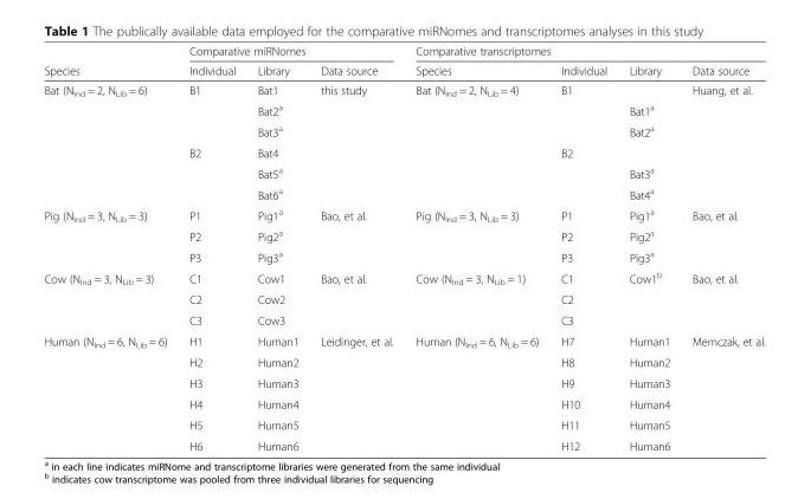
<table><thead><tr><td rowspan="2">Species</td><td colspan="3">Comparative miRNomes</td><td colspan="4">Comparative transcriptomes</td></tr><tr><td>Individual</td><td>Library</td><td>Data source</td><td>Species</td><td>Individual</td><td>Library</td><td>Data source</td></tr></thead><tbody><tr><td rowspan="6">Bat (N<sub>Ind</sub> = 2, N<sub>Lib</sub> = 6)</td><td rowspan="3">B1</td><td>Bat1</td><td rowspan="6">this study</td><td rowspan="6">Bat (N<sub>Ind</sub> = 2, N<sub>Lib</sub> = 4)</td><td rowspan="3">B1</td><td></td><td rowspan="6">Huang, et al.</td></tr><tr><td>Bat2<sup>a</sup></td><td>Bat1<sup>a</sup></td></tr><tr><td>Bat3<sup>a</sup></td><td>Bat2<sup>a</sup></td></tr><tr><td rowspan="3">B2</td><td>Bat4</td><td rowspan="3">B2</td><td></td></tr><tr><td>Bat5<sup>a</sup></td><td>Bat3<sup>a</sup></td></tr><tr><td>Bat6<sup>a</sup></td><td>Bat4<sup>a</sup></td></tr><tr><td rowspan="3">Pig (N<sub>Ind</sub> = 3, N<sub>Lib</sub> = 3)</td><td>P1</td><td>Pig1<sup>a</sup></td><td rowspan="3">Bao, et al.</td><td rowspan="3">Pig (N<sub>Ind</sub> = 3, N<sub>Lib</sub> = 3)</td><td>P1</td><td>Pig1<sup>a</sup></td><td rowspan="3">Bao, et al.</td></tr><tr><td>P2</td><td>Pig2<sup>a</sup></td><td>P2</td><td>Pig2<sup>a</sup></td></tr><tr><td>P3</td><td>Pig3<sup>a</sup></td><td>P3</td><td>Pig3<sup>a</sup></td></tr><tr><td rowspan="3">Cow (N<sub>Ind</sub> = 3, N<sub>Lib</sub> = 3)</td><td>C1</td><td>Cow1</td><td rowspan="3">Bao, et al.</td><td rowspan="3">Cow (N<sub>Ind</sub> = 3, N<sub>Lib</sub> = 1)</td><td>C1</td><td rowspan="3">Cow1<sup>b</sup></td><td rowspan="3">Bao, et al.</td></tr><tr><td>C2</td><td>Cow2</td><td>C2</td></tr><tr><td>C3</td><td>Cow3</td><td>C3</td></tr><tr><td rowspan="6">Human (N<sub>Ind</sub> = 6, N<sub>Lib</sub> = 6)</td><td>H1</td><td>Human1</td><td rowspan="6">Leidinger, et al.</td><td rowspan="6">Human (N<sub>Ind</sub> = 6, N<sub>Lib</sub> = 6)</td><td>H7</td><td>Human1</td><td rowspan="6">Memczak, et al.</td></tr><tr><td>H2</td><td>Human2</td><td>H8</td><td>Human2</td></tr><tr><td>H3</td><td>Human3</td><td>H9</td><td>Human3</td></tr><tr><td>H4</td><td>Human4</td><td>H10</td><td>Human4</td></tr><tr><td>H5</td><td>Human5</td><td>H11</td><td>Human5</td></tr><tr><td>H6</td><td>Human6</td><td>H12</td><td>Human6</td></tr></tbody></table>